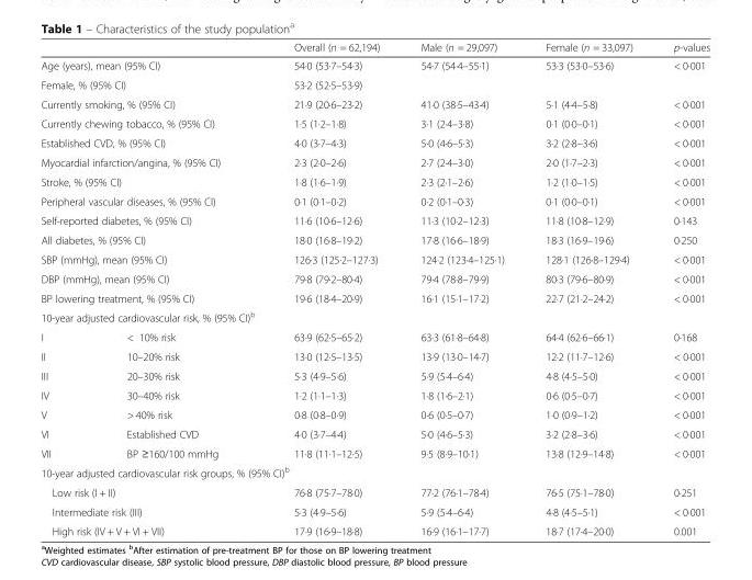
<table><thead><tr><td></td><td></td><td>Overall (n = 62,194)</td><td>Male (n = 29,097)</td><td>Female (n = 33,097)</td><td>p-values</td></tr></thead><tbody><tr><td colspan="2">Age (years), mean (95% CI)</td><td>54·0 (53·7–54·3)</td><td>54·7 (54·4–55·1)</td><td>53·3 (53·0–53·6)</td><td>&lt; 0·001</td></tr><tr><td colspan="2">Female, % (95% CI)</td><td>53·2 (52·5–53·9)</td><td></td><td></td><td></td></tr><tr><td colspan="2">Currently smoking, % (95% CI)</td><td>21·9 (20·6–23·2)</td><td>41·0 (38·5–43·4)</td><td>5·1 (4·4–5·8)</td><td>&lt; 0·001</td></tr><tr><td colspan="2">Currently chewing tobacco, % (95% CI)</td><td>1·5 (1·2–1·8)</td><td>3·1 (2·4–3·8)</td><td>0·1 (0·0–0·1)</td><td>&lt; 0·001</td></tr><tr><td colspan="2">Established CVD, % (95% CI)</td><td>4·0 (3·7–4·3)</td><td>5·0 (4·6–5·3)</td><td>3·2 (2·8–3·6)</td><td>&lt; 0·001</td></tr><tr><td colspan="2">Myocardial infarction/angina, % (95% CI)</td><td>2·3 (2·0–2·6)</td><td>2·7 (2·4–3·0)</td><td>2·0 (1·7–2·3)</td><td>&lt; 0·001</td></tr><tr><td colspan="2">Stroke, % (95% CI)</td><td>1·8 (1·6–1·9)</td><td>2·3 (2·1–2·6)</td><td>1·2 (1·0–1·5)</td><td>&lt; 0·001</td></tr><tr><td colspan="2">Peripheral vascular diseases, % (95% CI)</td><td>0·1 (0·1–0·2)</td><td>0·2 (0·1–0·3)</td><td>0·1 (0·0–0·1)</td><td>&lt; 0·001</td></tr><tr><td colspan="2">Self-reported diabetes, % (95% CI)</td><td>11·6 (10·6–12·6)</td><td>11·3 (10·2–12·3)</td><td>11·8 (10·8–12·9)</td><td>0·143</td></tr><tr><td colspan="2">All diabetes, % (95% CI)</td><td>18·0 (16·8–19·2)</td><td>17·8 (16·6–18·9)</td><td>18·3 (16·9–19·6)</td><td>0·250</td></tr><tr><td colspan="2">SBP (mmHg), mean (95% CI)</td><td>126·3 (125·2–127·3)</td><td>124·2 (123·4–125·1)</td><td>128·1 (126·8–129·4)</td><td>&lt; 0·001</td></tr><tr><td colspan="2">DBP (mmHg), mean (95% CI)</td><td>79·8 (79·2–80·4)</td><td>79·4 (78·8–79·9)</td><td>80·3 (79·6–80·9)</td><td>&lt; 0·001</td></tr><tr><td colspan="2">BP lowering treatment, % (95% CI)</td><td>19·6 (18·4–20·9)</td><td>16·1 (15·1–17·2)</td><td>22·7 (21·2–24·2)</td><td>&lt; 0·001</td></tr><tr><td colspan="6">10-year adjusted cardiovascular risk, % (95% CI)<sup>b</sup></td></tr><tr><td>I</td><td>&lt; 10% risk</td><td>63·9 (62·5–65·2)</td><td>63·3 (61·8–64·8)</td><td>64·4 (62·6–66·1)</td><td>0·168</td></tr><tr><td>II</td><td>10–20% risk</td><td>13·0 (12·5–13·5)</td><td>13·9 (13·0–14·7)</td><td>12·2 (11·7–12·6)</td><td>&lt; 0·001</td></tr><tr><td>III</td><td>20–30% risk</td><td>5·3 (4·9–5·6)</td><td>5·9 (5·4–6·4)</td><td>4·8 (4·5–5·0)</td><td>&lt; 0·001</td></tr><tr><td>IV</td><td>30–40% risk</td><td>1·2 (1·1–1·3)</td><td>1·8 (1·6–2·1)</td><td>0·6 (0·5–0·7)</td><td>&lt; 0·001</td></tr><tr><td>V</td><td>&gt; 40% risk</td><td>0·8 (0·8–0·9)</td><td>0·6 (0·5–0·7)</td><td>1·0 (0·9–1·2)</td><td>&lt; 0·001</td></tr><tr><td>VI</td><td>Established CVD</td><td>4·0 (3·7–4·4)</td><td>5·0 (4·6–5·3)</td><td>3·2 (2·8–3·6)</td><td>&lt; 0·001</td></tr><tr><td>VII</td><td>BP ≥160/100 mmHg</td><td>11·8 (11·1–12·5)</td><td>9·5 (8·9–10·1)</td><td>13·8 (12·9–14·8)</td><td>&lt; 0·001</td></tr><tr><td colspan="6">10-year adjusted cardiovascular risk groups, % (95% CI)<sup>b</sup></td></tr><tr><td colspan="2">Low risk (I + II)</td><td>76·8 (75·7–78·0)</td><td>77·2 (76·1–78·4)</td><td>76·5 (75·1–78·0)</td><td>0·251</td></tr><tr><td colspan="2">Intermediate risk (III)</td><td>5·3 (4·9–5·6)</td><td>5·9 (5·4–6·4)</td><td>4·8 (4·5–5·1)</td><td>&lt; 0·001</td></tr><tr><td colspan="2">High risk (IV + V + VI + VII)</td><td>17·9 (16·9–18·8)</td><td>16·9 (16·1–17·7)</td><td>18·7 (17·4–20·0)</td><td>0.001</td></tr></tbody></table>